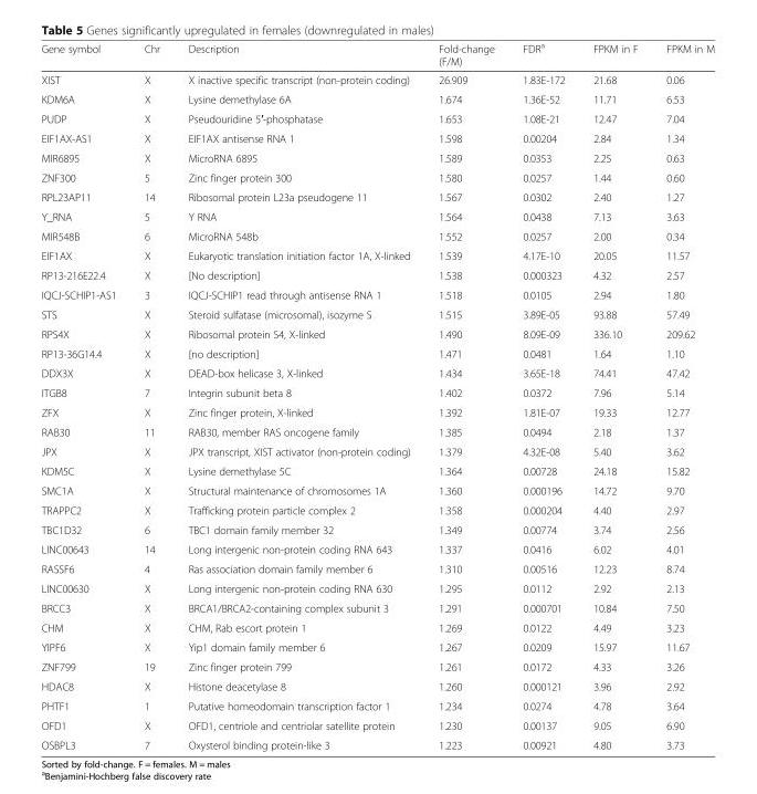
<table><thead><tr><td>Gene symbol</td><td>Chr</td><td>Description</td><td>Fold-change (F/M)</td><td>FDR<sup>a</sup></td><td>FPKM in F</td><td>FPKM in M</td></tr></thead><tbody><tr><td>XIST</td><td>X</td><td>X inactive specific transcript (non-protein coding)</td><td>26.909</td><td>1.83E-172</td><td>21.68</td><td>0.06</td></tr><tr><td>KDM6A</td><td>X</td><td>Lysine demethylase 6A</td><td>1.674</td><td>1.36E-52</td><td>11.71</td><td>6.53</td></tr><tr><td>PUDP</td><td>X</td><td>Pseudouridine 5′-phosphatase</td><td>1.653</td><td>1.08E-21</td><td>12.47</td><td>7.04</td></tr><tr><td>EIF1AX-AS1</td><td>X</td><td>EIF1AX antisense RNA 1</td><td>1.598</td><td>0.00204</td><td>2.84</td><td>1.34</td></tr><tr><td>MIR6895</td><td>X</td><td>MicroRNA 6895</td><td>1.589</td><td>0.0353</td><td>2.25</td><td>0.63</td></tr><tr><td>ZNF300</td><td>5</td><td>Zinc finger protein 300</td><td>1.580</td><td>0.0257</td><td>1.44</td><td>0.60</td></tr><tr><td>RPL23AP11</td><td>14</td><td>Ribosomal protein L23a pseudogene 11</td><td>1.567</td><td>0.0302</td><td>2.40</td><td>1.27</td></tr><tr><td>Y_RNA</td><td>5</td><td>Y RNA</td><td>1.564</td><td>0.0438</td><td>7.13</td><td>3.63</td></tr><tr><td>MIR548B</td><td>6</td><td>MicroRNA 548b</td><td>1.552</td><td>0.0257</td><td>2.00</td><td>0.34</td></tr><tr><td>EIF1AX</td><td>X</td><td>Eukaryotic translation initiation factor 1A, X-linked</td><td>1.539</td><td>4.17E-10</td><td>20.05</td><td>11.57</td></tr><tr><td>RP13-216E22.4</td><td>X</td><td>[No description]</td><td>1.538</td><td>0.000323</td><td>4.32</td><td>2.57</td></tr><tr><td>IQCJ-SCHIP1-AS1</td><td>3</td><td>IQCJ-SCHIP1 read through antisense RNA 1</td><td>1.518</td><td>0.0105</td><td>2.94</td><td>1.80</td></tr><tr><td>STS</td><td>X</td><td>Steroid sulfatase (microsomal), isozyme S</td><td>1.515</td><td>3.89E-05</td><td>93.88</td><td>57.49</td></tr><tr><td>RPS4X</td><td>X</td><td>Ribosomal protein S4, X-linked</td><td>1.490</td><td>8.09E-09</td><td>336.10</td><td>209.62</td></tr><tr><td>RP13-36G14.4</td><td>X</td><td>[no description]</td><td>1.471</td><td>0.0481</td><td>1.64</td><td>1.10</td></tr><tr><td>DDX3X</td><td>X</td><td>DEAD-box helicase 3, X-linked</td><td>1.434</td><td>3.65E-18</td><td>74.41</td><td>47.42</td></tr><tr><td>ITGB8</td><td>7</td><td>Integrin subunit beta 8</td><td>1.402</td><td>0.0372</td><td>7.96</td><td>5.14</td></tr><tr><td>ZFX</td><td>X</td><td>Zinc finger protein, X-linked</td><td>1.392</td><td>1.81E-07</td><td>19.33</td><td>12.77</td></tr><tr><td>RAB30</td><td>11</td><td>RAB30, member RAS oncogene family</td><td>1.385</td><td>0.0494</td><td>2.18</td><td>1.37</td></tr><tr><td>JPX</td><td>X</td><td>JPX transcript, XIST activator (non-protein coding)</td><td>1.379</td><td>4.32E-08</td><td>5.40</td><td>3.62</td></tr><tr><td>KDM5C</td><td>X</td><td>Lysine demethylase 5C</td><td>1.364</td><td>0.00728</td><td>24.18</td><td>15.82</td></tr><tr><td>SMC1A</td><td>X</td><td>Structural maintenance of chromosomes 1A</td><td>1.360</td><td>0.000196</td><td>14.72</td><td>9.70</td></tr><tr><td>TRAPPC2</td><td>X</td><td>Trafficking protein particle complex 2</td><td>1.358</td><td>0.000204</td><td>4.40</td><td>2.97</td></tr><tr><td>TBC1D32</td><td>6</td><td>TBC1 domain family member 32</td><td>1.349</td><td>0.00774</td><td>3.74</td><td>2.56</td></tr><tr><td>LINC00643</td><td>14</td><td>Long intergenic non-protein coding RNA 643</td><td>1.337</td><td>0.0416</td><td>6.02</td><td>4.01</td></tr><tr><td>RASSF6</td><td>4</td><td>Ras association domain family member 6</td><td>1.310</td><td>0.00516</td><td>12.23</td><td>8.74</td></tr><tr><td>LINC00630</td><td>X</td><td>Long intergenic non-protein coding RNA 630</td><td>1.295</td><td>0.0112</td><td>2.92</td><td>2.13</td></tr><tr><td>BRCC3</td><td>X</td><td>BRCA1/BRCA2-containing complex subunit 3</td><td>1.291</td><td>0.000701</td><td>10.84</td><td>7.50</td></tr><tr><td>CHM</td><td>X</td><td>CHM, Rab escort protein 1</td><td>1.269</td><td>0.0122</td><td>4.49</td><td>3.23</td></tr><tr><td>YIPF6</td><td>X</td><td>Yip1 domain family member 6</td><td>1.267</td><td>0.0209</td><td>15.97</td><td>11.67</td></tr><tr><td>ZNF799</td><td>19</td><td>Zinc finger protein 799</td><td>1.261</td><td>0.0172</td><td>4.33</td><td>3.26</td></tr><tr><td>HDAC8</td><td>X</td><td>Histone deacetylase 8</td><td>1.260</td><td>0.000121</td><td>3.96</td><td>2.92</td></tr><tr><td>PHTF1</td><td>1</td><td>Putative homeodomain transcription factor 1</td><td>1.234</td><td>0.0274</td><td>4.78</td><td>3.64</td></tr><tr><td>OFD1</td><td>X</td><td>OFD1, centriole and centriolar satellite protein</td><td>1.230</td><td>0.00137</td><td>9.05</td><td>6.90</td></tr><tr><td>OSBPL3</td><td>7</td><td>Oxysterol binding protein-like 3</td><td>1.223</td><td>0.00921</td><td>4.80</td><td>3.73</td></tr></tbody></table>